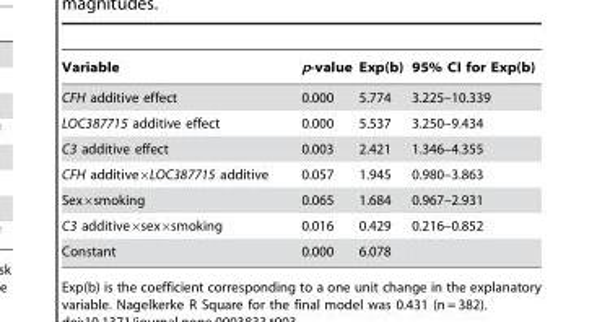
<table><thead><tr><td>Variable</td><td>p-value</td><td>Exp(b)</td><td>95% CI for Exp(b)</td></tr></thead><tbody><tr><td>CFH additive effect</td><td>0.000</td><td>5.774</td><td>3.225–10.339</td></tr><tr><td>LOC387715 additive effect</td><td>0.000</td><td>5.537</td><td>3.250–9.434</td></tr><tr><td>C3 additive effect</td><td>0.003</td><td>2.421</td><td>1.346–4.355</td></tr><tr><td>CFH additive×LOC387715 additive</td><td>0.057</td><td>1.945</td><td>0.980–3.863</td></tr><tr><td>Sex×smoking</td><td>0.065</td><td>1.684</td><td>0.967–2.931</td></tr><tr><td>C3 additive×sex×smoking</td><td>0.016</td><td>0.429</td><td>0.216–0.852</td></tr><tr><td>Constant</td><td>0.000</td><td>6.078</td><td></td></tr></tbody></table>